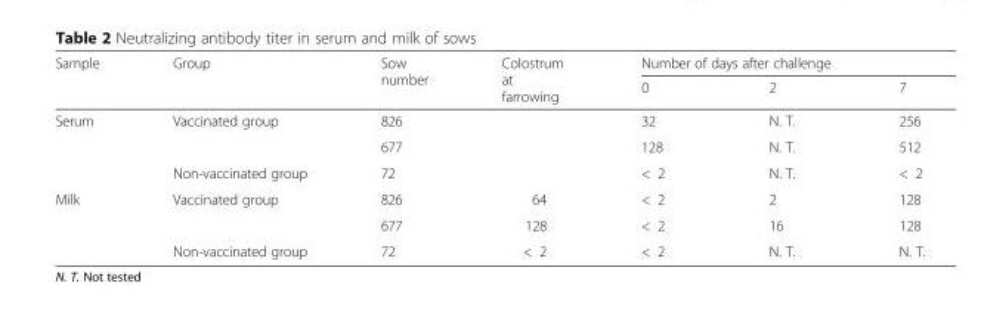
<table><thead><tr><td rowspan="2">Sample</td><td rowspan="2">Group</td><td rowspan="2">Sow number</td><td rowspan="2">Colostrum at farrowing</td><td colspan="3">Number of days after challenge</td></tr><tr><td>0</td><td>2</td><td>7</td></tr></thead><tbody><tr><td rowspan="3">Serum</td><td rowspan="2">Vaccinated group</td><td>826</td><td></td><td>32</td><td>N. T.</td><td>256</td></tr><tr><td>677</td><td></td><td>128</td><td>N. T.</td><td>512</td></tr><tr><td>Non-vaccinated group</td><td>72</td><td></td><td>&lt; 2</td><td>N. T.</td><td>&lt; 2</td></tr><tr><td rowspan="3">Milk</td><td rowspan="2">Vaccinated group</td><td>826</td><td>64</td><td>&lt; 2</td><td>2</td><td>128</td></tr><tr><td>677</td><td>128</td><td>&lt; 2</td><td>16</td><td>128</td></tr><tr><td>Non-vaccinated group</td><td>72</td><td>&lt; 2</td><td>&lt; 2</td><td>N. T.</td><td>N. T.</td></tr></tbody></table>